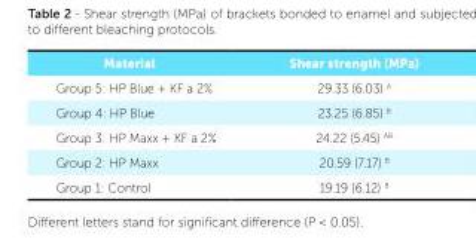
<table><thead><tr><td>Material</td><td>Shear strength (MPa)</td></tr></thead><tbody><tr><td>Group 5: HP Blue + KF a 2%</td><td>29.33 (6.03) <sup>A</sup></td></tr><tr><td>Group 4: HP Blue</td><td>23.25 (6.85) <sup>B</sup></td></tr><tr><td>Group 3: HP Maxx + KF a 2%</td><td>24.22 (5.45) <sup>AB</sup></td></tr><tr><td>Group 2: HP Maxx</td><td>20.59 (7.17) <sup>B</sup></td></tr><tr><td>Group 1: Control</td><td>19.19 (6.12) <sup>B</sup></td></tr></tbody></table>